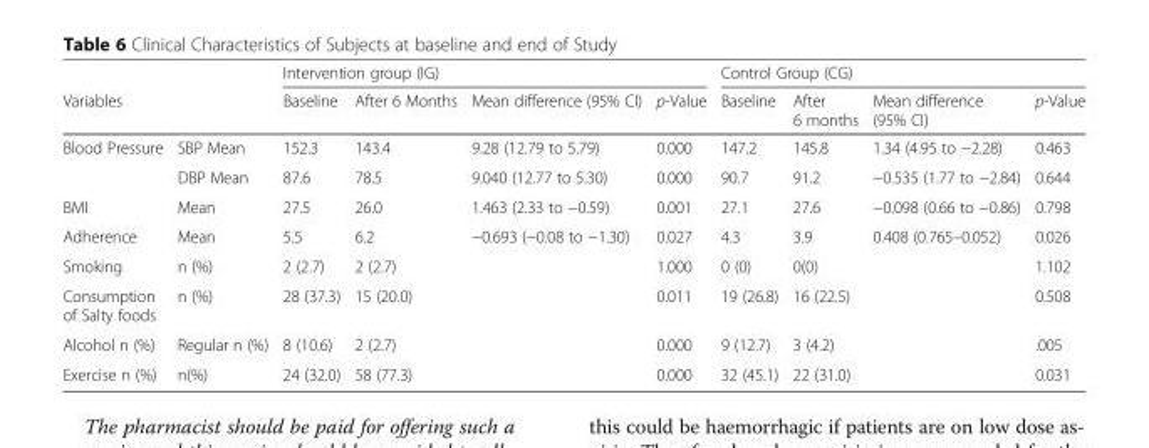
<table><thead><tr><td rowspan="2">Variables</td><td rowspan="2"></td><td colspan="4">Intervention group (IG)</td><td colspan="4">Control Group (CG)</td></tr><tr><td>Baseline</td><td>After 6 Months</td><td>Mean difference (95% CI)</td><td>p-Value</td><td>Baseline</td><td>After 6 months</td><td>Mean difference (95% CI)</td><td>p-Value</td></tr></thead><tbody><tr><td rowspan="2">Blood Pressure</td><td>SBP Mean</td><td>152.3</td><td>143.4</td><td>9.28 (12.79 to 5.79)</td><td>0.000</td><td>147.2</td><td>145.8</td><td>1.34 (4.95 to −2.28)</td><td>0.463</td></tr><tr><td>DBP Mean</td><td>87.6</td><td>78.5</td><td>9.040 (12.77 to 5.30)</td><td>0.000</td><td>90.7</td><td>91.2</td><td>−0.535 (1.77 to −2.84)</td><td>0.644</td></tr><tr><td>BMI</td><td>Mean</td><td>27.5</td><td>26.0</td><td>1.463 (2.33 to −0.59)</td><td>0.001</td><td>27.1</td><td>27.6</td><td>−0.098 (0.66 to −0.86)</td><td>0.798</td></tr><tr><td>Adherence</td><td>Mean</td><td>5.5</td><td>6.2</td><td>−0.693 (−0.08 to −1.30)</td><td>0.027</td><td>4.3</td><td>3.9</td><td>0.408 (0.765–0.052)</td><td>0.026</td></tr><tr><td>Smoking</td><td>n (%)</td><td>2 (2.7)</td><td>2 (2.7)</td><td></td><td>1.000</td><td>0 (0)</td><td>0(0)</td><td></td><td>1.102</td></tr><tr><td>Consumption of Salty foods</td><td>n (%)</td><td>28 (37.3)</td><td>15 (20.0)</td><td></td><td>0.011</td><td>19 (26.8)</td><td>16 (22.5)</td><td></td><td>0.508</td></tr><tr><td>Alcohol n (%)</td><td>Regular n (%)</td><td>8 (10.6)</td><td>2 (2.7)</td><td></td><td>0.000</td><td>9 (12.7)</td><td>3 (4.2)</td><td></td><td>.005</td></tr><tr><td>Exercise n (%)</td><td>n(%)</td><td>24 (32.0)</td><td>58 (77.3)</td><td></td><td>0.000</td><td>32 (45.1)</td><td>22 (31.0)</td><td></td><td>0.031</td></tr></tbody></table>